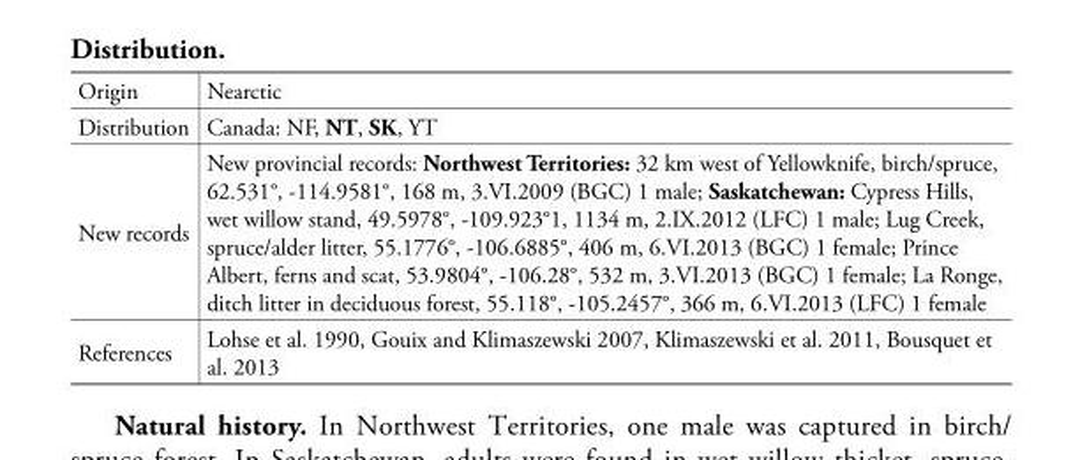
<table><tbody><tr><td>Origin</td><td>Nearctic</td></tr><tr><td>Distribution</td><td>Canada: NF, NT, SK, YT</td></tr><tr><td>New records</td><td>New provincial records: Northwest Territories: 32 km west of Yellowknife, birch/spruce, 62.531°, -114.9581°, 168 m, 3.VI.2009 (BGC) 1 male; Saskatchewan: Cypress Hills, wet willow stand, 49.5978°, -109.923°1, 1134 m, 2.IX.2012 (LFC) 1 male; Lug Creek, spruce/alder litter, 55.1776°, -106.6885°, 406 m, 6.VI.2013 (BGC) 1 female; Prince Albert, ferns and scat, 53.9804°, -106.28°, 532 m, 3.VI.2013 (BGC) 1 female; La Ronge, ditch litter in deciduous forest, 55.118°, -105.2457°, 366 m, 6.VI.2013 (LFC) 1 female</td></tr><tr><td>References</td><td>Lohse et al. 1990, Gouix and Klimaszewski 2007, Klimaszewski et al. 2011, Bousquet et al. 2013</td></tr></tbody></table>